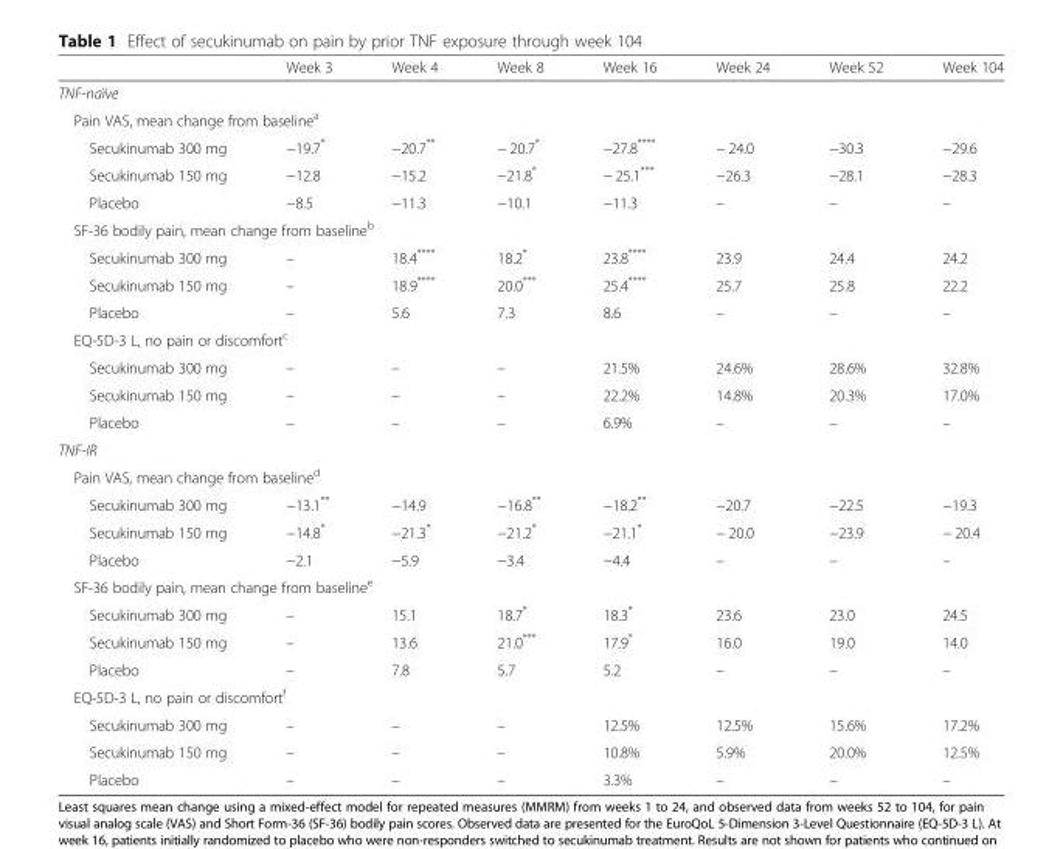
<table><thead><tr><td></td><td>Week 3</td><td>Week 4</td><td>Week 8</td><td>Week 16</td><td>Week 24</td><td>Week 52</td><td>Week 104</td></tr></thead><tbody><tr><td colspan="8">TNF-naïve</td></tr><tr><td colspan="8">Pain VAS, mean change from baseline<sup>a</sup></td></tr><tr><td>Secukinumab 300 mg</td><td>−19.7*</td><td>−20.7**</td><td>− 20.7*</td><td>−27.8****</td><td>− 24.0</td><td>−30.3</td><td>−29.6</td></tr><tr><td>Secukinumab 150 mg</td><td>−12.8</td><td>−15.2</td><td>−21.8*</td><td>− 25.1***</td><td>−26.3</td><td>−28.1</td><td>−28.3</td></tr><tr><td>Placebo</td><td>−8.5</td><td>−11.3</td><td>−10.1</td><td>−11.3</td><td>–</td><td>–</td><td>–</td></tr><tr><td colspan="8">SF-36 bodily pain, mean change from baseline<sup>b</sup></td></tr><tr><td>Secukinumab 300 mg</td><td>–</td><td>18.4****</td><td>18.2*</td><td>23.8****</td><td>23.9</td><td>24.4</td><td>24.2</td></tr><tr><td>Secukinumab 150 mg</td><td>–</td><td>18.9****</td><td>20.0***</td><td>25.4****</td><td>25.7</td><td>25.8</td><td>22.2</td></tr><tr><td>Placebo</td><td>–</td><td>5.6</td><td>7.3</td><td>8.6</td><td>–</td><td>–</td><td>–</td></tr><tr><td colspan="8">EQ-5D-3 L, no pain or discomfort<sup>c</sup></td></tr><tr><td>Secukinumab 300 mg</td><td>–</td><td>–</td><td>–</td><td>21.5%</td><td>24.6%</td><td>28.6%</td><td>32.8%</td></tr><tr><td>Secukinumab 150 mg</td><td>–</td><td>–</td><td>–</td><td>22.2%</td><td>14.8%</td><td>20.3%</td><td>17.0%</td></tr><tr><td>Placebo</td><td>–</td><td>–</td><td>–</td><td>6.9%</td><td>–</td><td>–</td><td>–</td></tr><tr><td colspan="8">TNF-IR</td></tr><tr><td colspan="8">Pain VAS, mean change from baseline<sup>d</sup></td></tr><tr><td>Secukinumab 300 mg</td><td>−13.1**</td><td>−14.9</td><td>−16.8**</td><td>−18.2**</td><td>−20.7</td><td>−22.5</td><td>−19.3</td></tr><tr><td>Secukinumab 150 mg</td><td>−14.8*</td><td>−21.3*</td><td>−21.2*</td><td>−21.1*</td><td>− 20.0</td><td>−23.9</td><td>− 20.4</td></tr><tr><td>Placebo</td><td>−2.1</td><td>−5.9</td><td>−3.4</td><td>−4.4</td><td>–</td><td>–</td><td>–</td></tr><tr><td colspan="8">SF-36 bodily pain, mean change from baseline<sup>e</sup></td></tr><tr><td>Secukinumab 300 mg</td><td>–</td><td>15.1</td><td>18.7*</td><td>18.3*</td><td>23.6</td><td>23.0</td><td>24.5</td></tr><tr><td>Secukinumab 150 mg</td><td>–</td><td>13.6</td><td>21.0***</td><td>17.9*</td><td>16.0</td><td>19.0</td><td>14.0</td></tr><tr><td>Placebo</td><td>–</td><td>7.8</td><td>5.7</td><td>5.2</td><td>–</td><td>–</td><td>–</td></tr><tr><td colspan="8">EQ-5D-3 L, no pain or discomfort<sup>f</sup></td></tr><tr><td>Secukinumab 300 mg</td><td>–</td><td>–</td><td>–</td><td>12.5%</td><td>12.5%</td><td>15.6%</td><td>17.2%</td></tr><tr><td>Secukinumab 150 mg</td><td>–</td><td>–</td><td>–</td><td>10.8%</td><td>5.9%</td><td>20.0%</td><td>12.5%</td></tr><tr><td>Placebo</td><td>–</td><td>–</td><td>–</td><td>3.3%</td><td>–</td><td>–</td><td>–</td></tr></tbody></table>